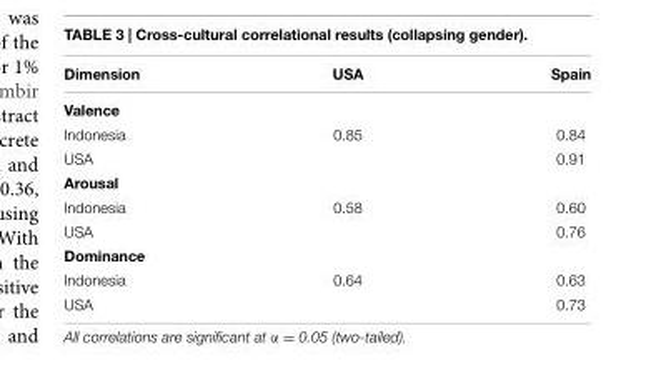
<table><thead><tr><td>Dimension</td><td>USA</td><td>Spain</td></tr></thead><tbody><tr><td colspan="3">Valence</td></tr><tr><td>Indonesia</td><td>0.85</td><td>0.84</td></tr><tr><td>USA</td><td></td><td>0.91</td></tr><tr><td colspan="3">Arousal</td></tr><tr><td>Indonesia</td><td>0.58</td><td>0.60</td></tr><tr><td>USA</td><td></td><td>0.76</td></tr><tr><td colspan="3">Dominance</td></tr><tr><td>Indonesia</td><td>0.64</td><td>0.63</td></tr><tr><td>USA</td><td></td><td>0.73</td></tr></tbody></table>